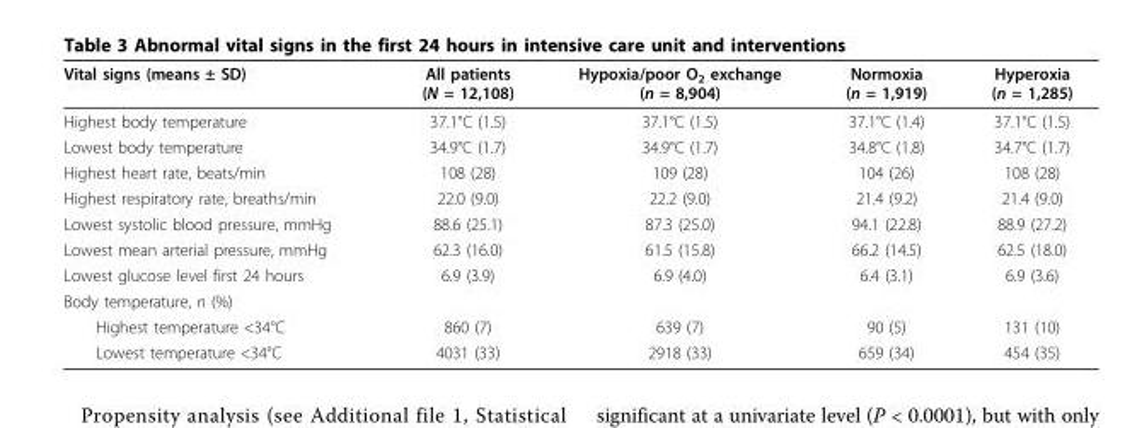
<table><thead><tr><td>Vital signs (means ± SD)</td><td>All patients (N = 12,108)</td><td>Hypoxia/poor O<sub>2</sub> exchange (n = 8,904)</td><td>Normoxia (n = 1,919)</td><td>Hyperoxia (n = 1,285)</td></tr></thead><tbody><tr><td>Highest body temperature</td><td>37.1°C (1.5)</td><td>37.1°C (1.5)</td><td>37.1°C (1.4)</td><td>37.1°C (1.5)</td></tr><tr><td>Lowest body temperature</td><td>34.9°C (1.7)</td><td>34.9°C (1.7)</td><td>34.8°C (1.8)</td><td>34.7°C (1.7)</td></tr><tr><td>Highest heart rate, beats/min</td><td>108 (28)</td><td>109 (28)</td><td>104 (26)</td><td>108 (28)</td></tr><tr><td>Highest respiratory rate, breaths/min</td><td>22.0 (9.0)</td><td>22.2 (9.0)</td><td>21.4 (9.2)</td><td>21.4 (9.0)</td></tr><tr><td>Lowest systolic blood pressure, mmHg</td><td>88.6 (25.1)</td><td>87.3 (25.0)</td><td>94.1 (22.8)</td><td>88.9 (27.2)</td></tr><tr><td>Lowest mean arterial pressure, mmHg</td><td>62.3 (16.0)</td><td>61.5 (15.8)</td><td>66.2 (14.5)</td><td>62.5 (18.0)</td></tr><tr><td>Lowest glucose level first 24 hours</td><td>6.9 (3.9)</td><td>6.9 (4.0)</td><td>6.4 (3.1)</td><td>6.9 (3.6)</td></tr><tr><td colspan="5">Body temperature, n (%)</td></tr><tr><td>Highest temperature &lt;34°C</td><td>860 (7)</td><td>639 (7)</td><td>90 (5)</td><td>131 (10)</td></tr><tr><td>Lowest temperature &lt;34°C</td><td>4031 (33)</td><td>2918 (33)</td><td>659 (34)</td><td>454 (35)</td></tr></tbody></table>